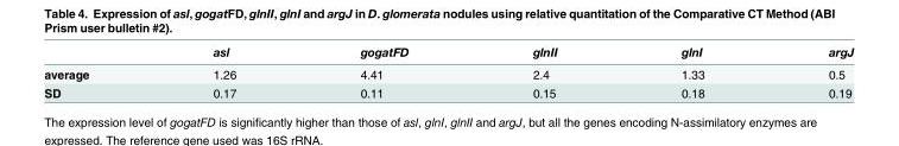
<table><thead><tr><td></td><td>asl</td><td>gogatFD</td><td>glnII</td><td>glnI</td><td>argJ</td></tr></thead><tbody><tr><td>average</td><td>1.26</td><td>4.41</td><td>2.4</td><td>1.33</td><td>0.5</td></tr><tr><td>SD</td><td>0.17</td><td>0.11</td><td>0.15</td><td>0.18</td><td>0.19</td></tr></tbody></table>